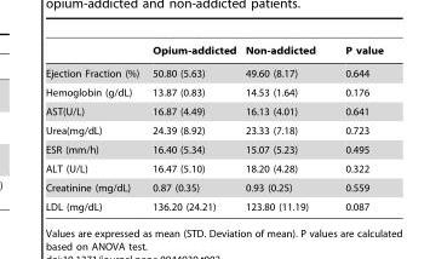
<table><thead><tr><td></td><td>Opium-addicted</td><td>Non-addicted</td><td>P value</td></tr></thead><tbody><tr><td>Ejection Fraction (%)</td><td>50.80 (5.63)</td><td>49.60 (8.17)</td><td>0.644</td></tr><tr><td>Hemoglobin (g/dL)</td><td>13.87 (0.83)</td><td>14.53 (1.64)</td><td>0.176</td></tr><tr><td>AST(U/L)</td><td>16.87 (4.49)</td><td>16.13 (4.01)</td><td>0.641</td></tr><tr><td>Urea(mg/dL)</td><td>24.39 (8.92)</td><td>23.33 (7.18)</td><td>0.723</td></tr><tr><td>ESR (mm/h)</td><td>16.40 (5.34)</td><td>15.07 (5.23)</td><td>0.495</td></tr><tr><td>ALT (U/L)</td><td>16.47 (5.10)</td><td>18.20 (4.28)</td><td>0.322</td></tr><tr><td>Creatinine (mg/dL)</td><td>0.87 (0.35)</td><td>0.93 (0.25)</td><td>0.559</td></tr><tr><td>LDL (mg/dL)</td><td>136.20 (24.21)</td><td>123.80 (11.19)</td><td>0.087</td></tr></tbody></table>